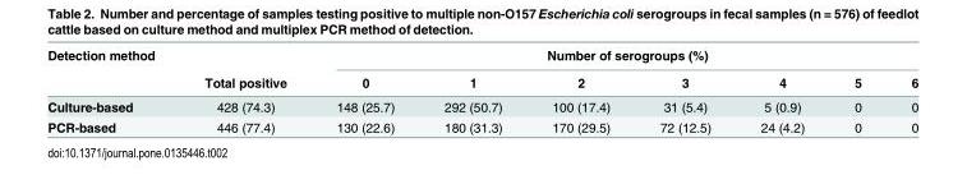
<table><thead><tr><td rowspan="2">Detection method</td><td rowspan="2">Total positive</td><td colspan="7">Number of serogroups (%)</td></tr><tr><td>0</td><td>1</td><td>2</td><td>3</td><td>4</td><td>5</td><td>6</td></tr></thead><tbody><tr><td>Culture-based</td><td>428 (74.3)</td><td>148 (25.7)</td><td>292 (50.7)</td><td>100 (17.4)</td><td>31 (5.4)</td><td>5 (0.9)</td><td>0</td><td>0</td></tr><tr><td>PCR-based</td><td>446 (77.4)</td><td>130 (22.6)</td><td>180 (31.3)</td><td>170 (29.5)</td><td>72 (12.5)</td><td>24 (4.2)</td><td>0</td><td>0</td></tr></tbody></table>